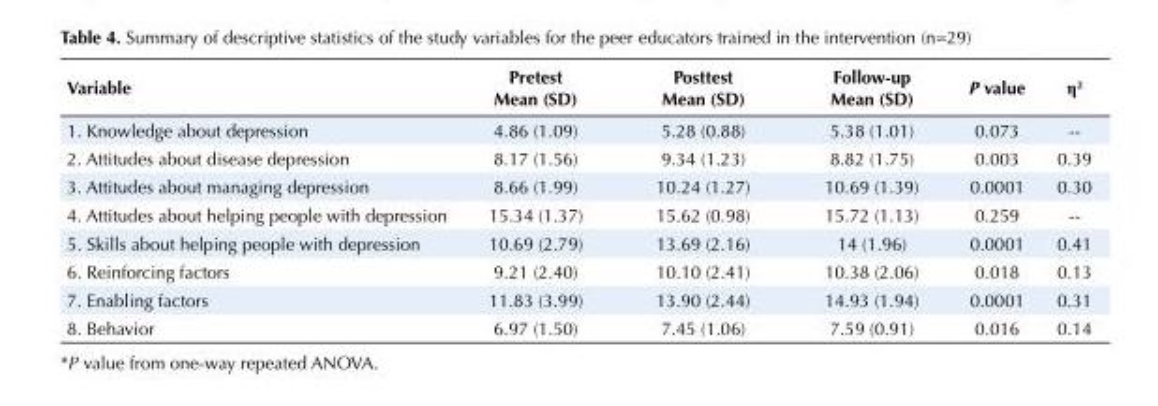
<table><tbody><tr><td>Variable</td><td>Pretest Mean (SD)</td><td>Posttest Mean (SD)</td><td>Follow-up Mean (SD)</td><td>P value</td><td>η<sup>2</sup></td></tr><tr><td>1. Knowledge about depression</td><td>4.86 (1.09)</td><td>5.28 (0.88)</td><td>5.38 (1.01)</td><td>0.073</td><td>--</td></tr><tr><td>2. Attitudes about disease depression</td><td>8.17 (1.56)</td><td>9.34 (1.23)</td><td>8.82 (1.75)</td><td>0.003</td><td>0.39</td></tr><tr><td>3. Attitudes about managing depression</td><td>8.66 (1.99)</td><td>10.24 (1.27)</td><td>10.69 (1.39)</td><td>0.0001</td><td>0.30</td></tr><tr><td>4. Attitudes about helping people with depression</td><td>15.34 (1.37)</td><td>15.62 (0.98)</td><td>15.72 (1.13)</td><td>0.259</td><td>--</td></tr><tr><td>5. Skills about helping people with depression</td><td>10.69 (2.79)</td><td>13.69 (2.16)</td><td>14 (1.96)</td><td>0.0001</td><td>0.41</td></tr><tr><td>6. Reinforcing factors</td><td>9.21 (2.40)</td><td>10.10 (2.41)</td><td>10.38 (2.06)</td><td>0.018</td><td>0.13</td></tr><tr><td>7. Enabling factors</td><td>11.83 (3.99)</td><td>13.90 (2.44)</td><td>14.93 (1.94)</td><td>0.0001</td><td>0.31</td></tr><tr><td>8. Behavior</td><td>6.97 (1.50)</td><td>7.45 (1.06)</td><td>7.59 (0.91)</td><td>0.016</td><td>0.14</td></tr></tbody></table>